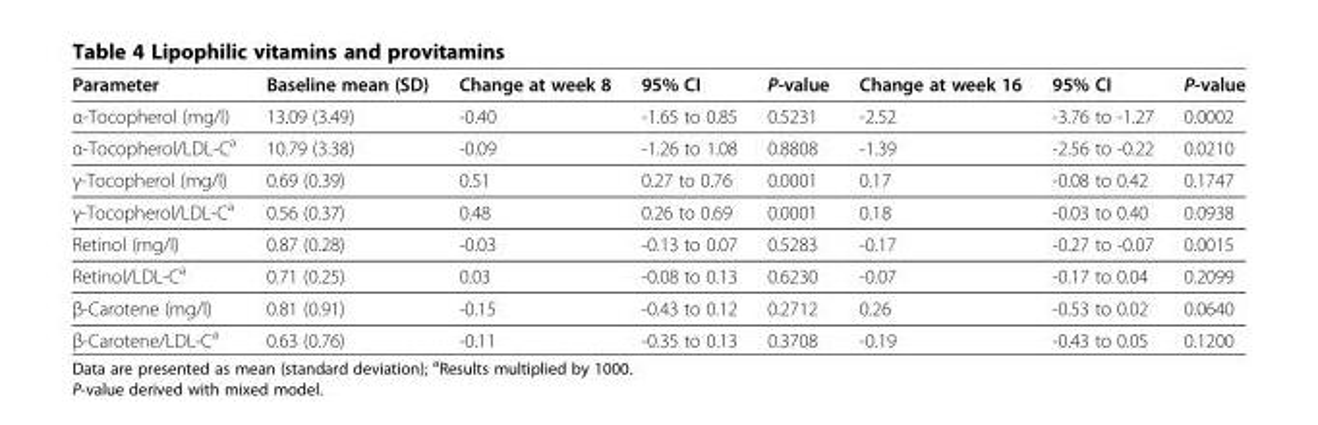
<table><thead><tr><td>Parameter</td><td>Baseline mean (SD)</td><td>Change at week 8</td><td>95% CI</td><td>P-value</td><td>Change at week 16</td><td>95% CI</td><td>P-value</td></tr></thead><tbody><tr><td>α-Tocopherol (mg/l)</td><td>13.09 (3.49)</td><td>-0.40</td><td>-1.65 to 0.85</td><td>0.5231</td><td>-2.52</td><td>-3.76 to -1.27</td><td>0.0002</td></tr><tr><td>α-Tocopherol/LDL-C<sup>a</sup></td><td>10.79 (3.38)</td><td>-0.09</td><td>-1.26 to 1.08</td><td>0.8808</td><td>-1.39</td><td>-2.56 to -0.22</td><td>0.0210</td></tr><tr><td>γ-Tocopherol (mg/l)</td><td>0.69 (0.39)</td><td>0.51</td><td>0.27 to 0.76</td><td>0.0001</td><td>0.17</td><td>-0.08 to 0.42</td><td>0.1747</td></tr><tr><td>γ-Tocopherol/LDL-C<sup>a</sup></td><td>0.56 (0.37)</td><td>0.48</td><td>0.26 to 0.69</td><td>0.0001</td><td>0.18</td><td>-0.03 to 0.40</td><td>0.0938</td></tr><tr><td>Retinol (mg/l)</td><td>0.87 (0.28)</td><td>-0.03</td><td>-0.13 to 0.07</td><td>0.5283</td><td>-0.17</td><td>-0.27 to -0.07</td><td>0.0015</td></tr><tr><td>Retinol/LDL-C<sup>a</sup></td><td>0.71 (0.25)</td><td>0.03</td><td>-0.08 to 0.13</td><td>0.6230</td><td>-0.07</td><td>-0.17 to 0.04</td><td>0.2099</td></tr><tr><td>β-Carotene (mg/l)</td><td>0.81 (0.91)</td><td>-0.15</td><td>-0.43 to 0.12</td><td>0.2712</td><td>0.26</td><td>-0.53 to 0.02</td><td>0.0640</td></tr><tr><td>β-Carotene/LDL-C<sup>a</sup></td><td>0.63 (0.76)</td><td>-0.11</td><td>-0.35 to 0.13</td><td>0.3708</td><td>-0.19</td><td>-0.43 to 0.05</td><td>0.1200</td></tr></tbody></table>